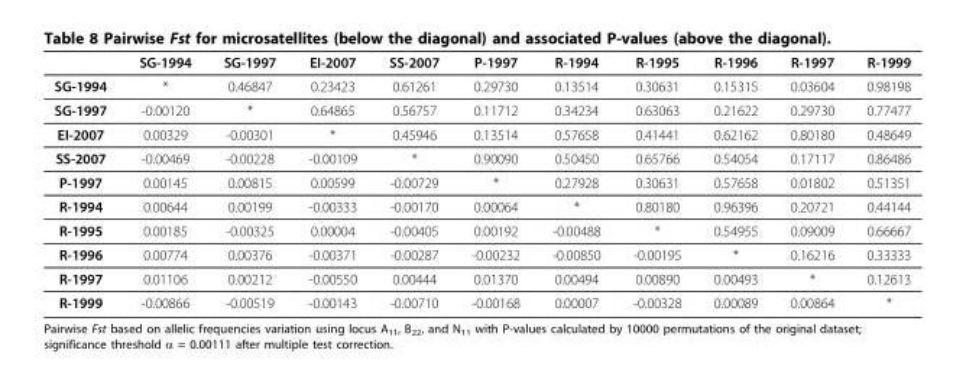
<table><thead><tr><td></td><td>SG-1994</td><td>SG-1997</td><td>EI-2007</td><td>SS-2007</td><td>P-1997</td><td>R-1994</td><td>R-1995</td><td>R-1996</td><td>R-1997</td><td>R-1999</td></tr></thead><tbody><tr><td>SG-1994</td><td>*</td><td>0.46847</td><td>0.23423</td><td>0.61261</td><td>0.29730</td><td>0.13514</td><td>0.30631</td><td>0.15315</td><td>0.03604</td><td>0.98198</td></tr><tr><td>SG-1997</td><td>-0.00120</td><td>*</td><td>0.64865</td><td>0.56757</td><td>0.11712</td><td>0.34234</td><td>0.63063</td><td>0.21622</td><td>0.29730</td><td>0.77477</td></tr><tr><td>EI-2007</td><td>0.00329</td><td>-0.00301</td><td>*</td><td>0.45946</td><td>0.13514</td><td>0.57658</td><td>0.41441</td><td>0.62162</td><td>0.80180</td><td>0.48649</td></tr><tr><td>SS-2007</td><td>-0.00469</td><td>-0.00228</td><td>-0.00109</td><td>*</td><td>0.90090</td><td>0.50450</td><td>0.65766</td><td>0.54054</td><td>0.17117</td><td>0.86486</td></tr><tr><td>P-1997</td><td>0.00145</td><td>0.00815</td><td>0.00599</td><td>-0.00729</td><td>*</td><td>0.27928</td><td>0.30631</td><td>0.57658</td><td>0.01802</td><td>0.51351</td></tr><tr><td>R-1994</td><td>0.00644</td><td>0.00199</td><td>-0.00333</td><td>-0.00170</td><td>0.00064</td><td>*</td><td>0.80180</td><td>0.96396</td><td>0.20721</td><td>0.44144</td></tr><tr><td>R-1995</td><td>0.00185</td><td>-0.00325</td><td>0.00004</td><td>-0.00405</td><td>0.00192</td><td>-0.00488</td><td>*</td><td>0.54955</td><td>0.09009</td><td>0.66667</td></tr><tr><td>R-1996</td><td>0.00774</td><td>0.00376</td><td>-0.00371</td><td>-0.00287</td><td>-0.00232</td><td>-0.00850</td><td>-0.00195</td><td>*</td><td>0.16216</td><td>0.33333</td></tr><tr><td>R-1997</td><td>0.01106</td><td>0.00212</td><td>-0.00550</td><td>0.00444</td><td>0.01370</td><td>0.00494</td><td>0.00890</td><td>0.00493</td><td>*</td><td>0.12613</td></tr><tr><td>R-1999</td><td>-0.00866</td><td>-0.00519</td><td>-0.00143</td><td>-0.00710</td><td>-0.00168</td><td>0.00007</td><td>-0.00328</td><td>0.00089</td><td>0.00864</td><td>*</td></tr></tbody></table>